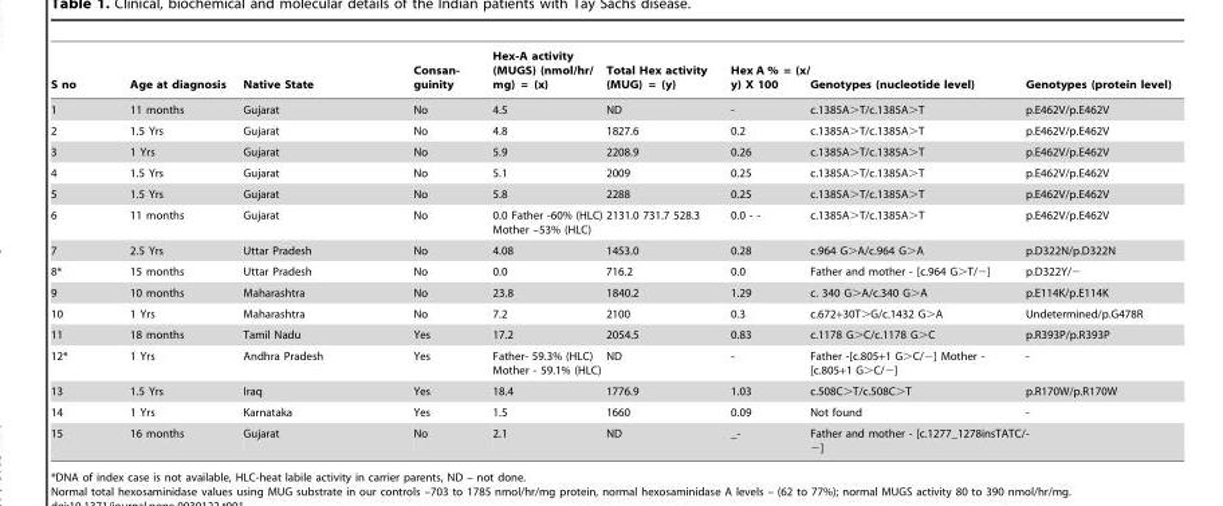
<table><thead><tr><td>S no</td><td>Age at diagnosis</td><td>Native State</td><td>Consan- guinity</td><td>Hex-A activity (MUGS) (nmol/hr/ mg) = (x)</td><td>Total Hex activity (MUG) = (y)</td><td>Hex A % = (x/ y) X 100</td><td>Genotypes (nucleotide level)</td><td>Genotypes (protein level)</td></tr></thead><tbody><tr><td>1</td><td>11 months</td><td>Gujarat</td><td>No</td><td>4.5</td><td>ND</td><td>-</td><td>c.1385A&gt;T/c.1385A&gt;T</td><td>p.E462V/p.E462V</td></tr><tr><td>2</td><td>1.5 Yrs</td><td>Gujarat</td><td>No</td><td>4.8</td><td>1827.6</td><td>0.2</td><td>c.1385A&gt;T/c.1385A&gt;T</td><td>p.E462V/p.E462V</td></tr><tr><td>3</td><td>1 Yrs</td><td>Gujarat</td><td>No</td><td>5.9</td><td>2208.9</td><td>0.26</td><td>c.1385A&gt;T/c.1385A&gt;T</td><td>p.E462V/p.E462V</td></tr><tr><td>4</td><td>1.5 Yrs</td><td>Gujarat</td><td>No</td><td>5.1</td><td>2009</td><td>0.25</td><td>c.1385A&gt;T/c.1385A&gt;T</td><td>p.E462V/p.E462V</td></tr><tr><td>5</td><td>1.5 Yrs</td><td>Gujarat</td><td>No</td><td>5.8</td><td>2288</td><td>0.25</td><td>c.1385A&gt;T/c.1385A&gt;T</td><td>p.E462V/p.E462V</td></tr><tr><td>6</td><td>11 months</td><td>Gujarat</td><td>No</td><td>0.0 Father -60% (HLC) Mother –53% (HLC)</td><td>2131.0 731.7 528.3</td><td>0.0 - -</td><td>c.1385A&gt;T/c.1385A&gt;T</td><td>p.E462V/p.E462V</td></tr><tr><td>7</td><td>2.5 Yrs</td><td>Uttar Pradesh</td><td>No</td><td>4.08</td><td>1453.0</td><td>0.28</td><td>c.964 G&gt;A/c.964 G&gt;A</td><td>p.D322N/p.D322N</td></tr><tr><td>8*</td><td>15 months</td><td>Uttar Pradesh</td><td>No</td><td>0.0</td><td>716.2</td><td>0.0</td><td>Father and mother - [c.964 G&gt;T/−]</td><td>p.D322Y/−</td></tr><tr><td>9</td><td>10 months</td><td>Maharashtra</td><td>No</td><td>23.8</td><td>1840.2</td><td>1.29</td><td>c. 340 G&gt;A/c.340 G&gt;A</td><td>p.E114K/p.E114K</td></tr><tr><td>10</td><td>1 Yrs</td><td>Maharashtra</td><td>No</td><td>7.2</td><td>2100</td><td>0.3</td><td>c.672+30T&gt;G/c.1432 G&gt;A</td><td>Undetermined/p.G478R</td></tr><tr><td>11</td><td>18 months</td><td>Tamil Nadu</td><td>Yes</td><td>17.2</td><td>2054.5</td><td>0.83</td><td>c.1178 G&gt;C/c.1178 G&gt;C</td><td>p.R393P/p.R393P</td></tr><tr><td>12*</td><td>1 Yrs</td><td>Andhra Pradesh</td><td>Yes</td><td>Father- 59.3% (HLC) Mother - 59.1% (HLC)</td><td>ND</td><td>-</td><td>Father -[c.805+1 G&gt;C/−] Mother - [c.805+1 G&gt;C/−]</td><td>-</td></tr><tr><td>13</td><td>1.5 Yrs</td><td>Iraq</td><td>Yes</td><td>18.4</td><td>1776.9</td><td>1.03</td><td>c.508C&gt;T/c.508C&gt;T</td><td>p.R170W/p.R170W</td></tr><tr><td>14</td><td>1 Yrs</td><td>Karnataka</td><td>Yes</td><td>1.5</td><td>1660</td><td>0.09</td><td>Not found</td><td>-</td></tr><tr><td>15</td><td>16 months</td><td>Gujarat</td><td>No</td><td>2.1</td><td>ND</td><td>_-</td><td>Father and mother - [c.1277_1278insTATC/ −]</td><td>-</td></tr></tbody></table>